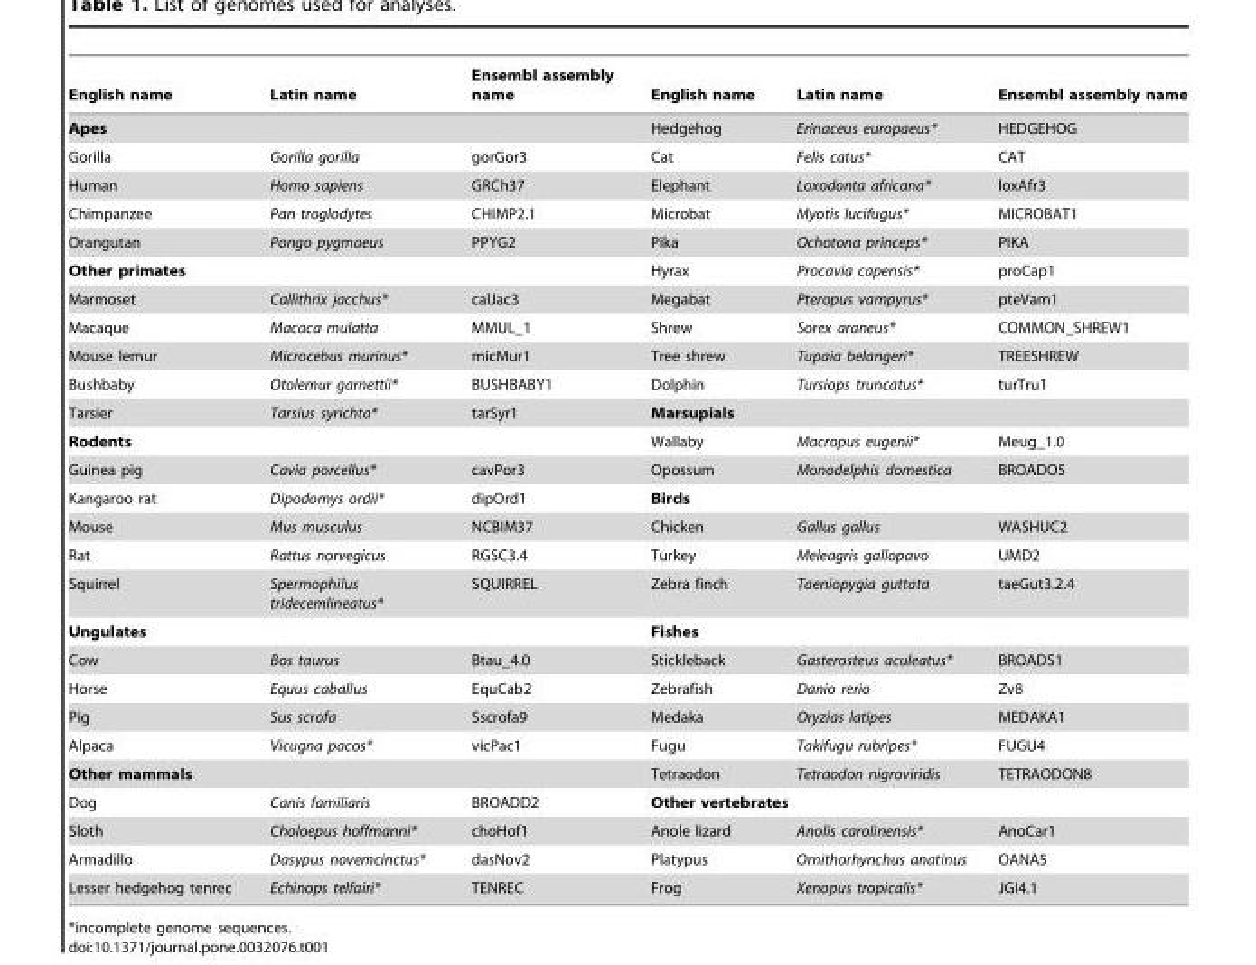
<table><thead><tr><td>English name</td><td>Latin name</td><td>Ensembl assembly name</td><td>English name</td><td>Latin name</td><td>Ensembl assembly name</td></tr></thead><tbody><tr><td colspan="3">Apes</td><td>Hedgehog</td><td>Erinaceus europaeus*</td><td>HEDGEHOG</td></tr><tr><td>Gorilla</td><td>Gorilla gorilla</td><td>gorGor3</td><td>Cat</td><td>Felis catus*</td><td>CAT</td></tr><tr><td>Human</td><td>Homo sapiens</td><td>GRCh37</td><td>Elephant</td><td>Loxodonta africana*</td><td>loxAfr3</td></tr><tr><td>Chimpanzee</td><td>Pan troglodytes</td><td>CHIMP2.1</td><td>Microbat</td><td>Myotis lucifugus*</td><td>MICROBAT1</td></tr><tr><td>Orangutan</td><td>Pongo pygmaeus</td><td>PPYG2</td><td>Pika</td><td>Ochotona princeps*</td><td>PIKA</td></tr><tr><td colspan="3">Other primates</td><td>Hyrax</td><td>Procavia capensis*</td><td>proCap1</td></tr><tr><td>Marmoset</td><td>Callithrix jacchus*</td><td>calJac3</td><td>Megabat</td><td>Pteropus vampyrus*</td><td>pteVam1</td></tr><tr><td>Macaque</td><td>Macaca mulatta</td><td>MMUL_1</td><td>Shrew</td><td>Sorex araneus*</td><td>COMMON_SHREW1</td></tr><tr><td>Mouse lemur</td><td>Microcebus murinus*</td><td>micMur1</td><td>Tree shrew</td><td>Tupaia belangeri*</td><td>TREESHREW</td></tr><tr><td>Bushbaby</td><td>Otolemur garnettii*</td><td>BUSHBABY1</td><td>Dolphin</td><td>Tursiops truncatus*</td><td>turTru1</td></tr><tr><td>Tarsier</td><td>Tarsius syrichta*</td><td>tarSyr1</td><td colspan="3">Marsupials</td></tr><tr><td colspan="3">Rodents</td><td>Wallaby</td><td>Macropus eugenii*</td><td>Meug_1.0</td></tr><tr><td>Guinea pig</td><td>Cavia porcellus*</td><td>cavPor3</td><td>Opossum</td><td>Monodelphis domestica</td><td>BROADO5</td></tr><tr><td>Kangaroo rat</td><td>Dipodomys ordii*</td><td>dipOrd1</td><td colspan="3">Birds</td></tr><tr><td>Mouse</td><td>Mus musculus</td><td>NCBIM37</td><td>Chicken</td><td>Gallus gallus</td><td>WASHUC2</td></tr><tr><td>Rat</td><td>Rattus norvegicus</td><td>RGSC3.4</td><td>Turkey</td><td>Meleagris gallopavo</td><td>UMD2</td></tr><tr><td>Squirrel</td><td>Spermophilus tridecemlineatus*</td><td>SQUIRREL</td><td>Zebra finch</td><td>Taeniopygia guttata</td><td>taeGut3.2.4</td></tr><tr><td colspan="3">Ungulates</td><td colspan="3">Fishes</td></tr><tr><td>Cow</td><td>Bos taurus</td><td>Btau_4.0</td><td>Stickleback</td><td>Gasterosteus aculeatus*</td><td>BROADS1</td></tr><tr><td>Horse</td><td>Equus caballus</td><td>EquCab2</td><td>Zebrafish</td><td>Danio rerio</td><td>Zv8</td></tr><tr><td>Pig</td><td>Sus scrofa</td><td>Sscrofa9</td><td>Medaka</td><td>Oryzias latipes</td><td>MEDAKA1</td></tr><tr><td>Alpaca</td><td>Vicugna pacos*</td><td>vicPac1</td><td>Fugu</td><td>Takifugu rubripes*</td><td>FUGU4</td></tr><tr><td colspan="3">Other mammals</td><td>Tetraodon</td><td>Tetraodon nigroviridis</td><td>TETRAODON8</td></tr><tr><td>Dog</td><td>Canis familiaris</td><td>BROADD2</td><td colspan="3">Other vertebrates</td></tr><tr><td>Sloth</td><td>Choloepus hoffmanni*</td><td>choHof1</td><td>Anole lizard</td><td>Anolis carolinensis*</td><td>AnoCar1</td></tr><tr><td>Armadillo</td><td>Dasypus novemcinctus*</td><td>dasNov2</td><td>Platypus</td><td>Ornithorhynchus anatinus</td><td>OANA5</td></tr><tr><td>Lesser hedgehog tenrec</td><td>Echinops telfairi*</td><td>TENREC</td><td>Frog</td><td>Xenopus tropicalis*</td><td>JGI4.1</td></tr></tbody></table>